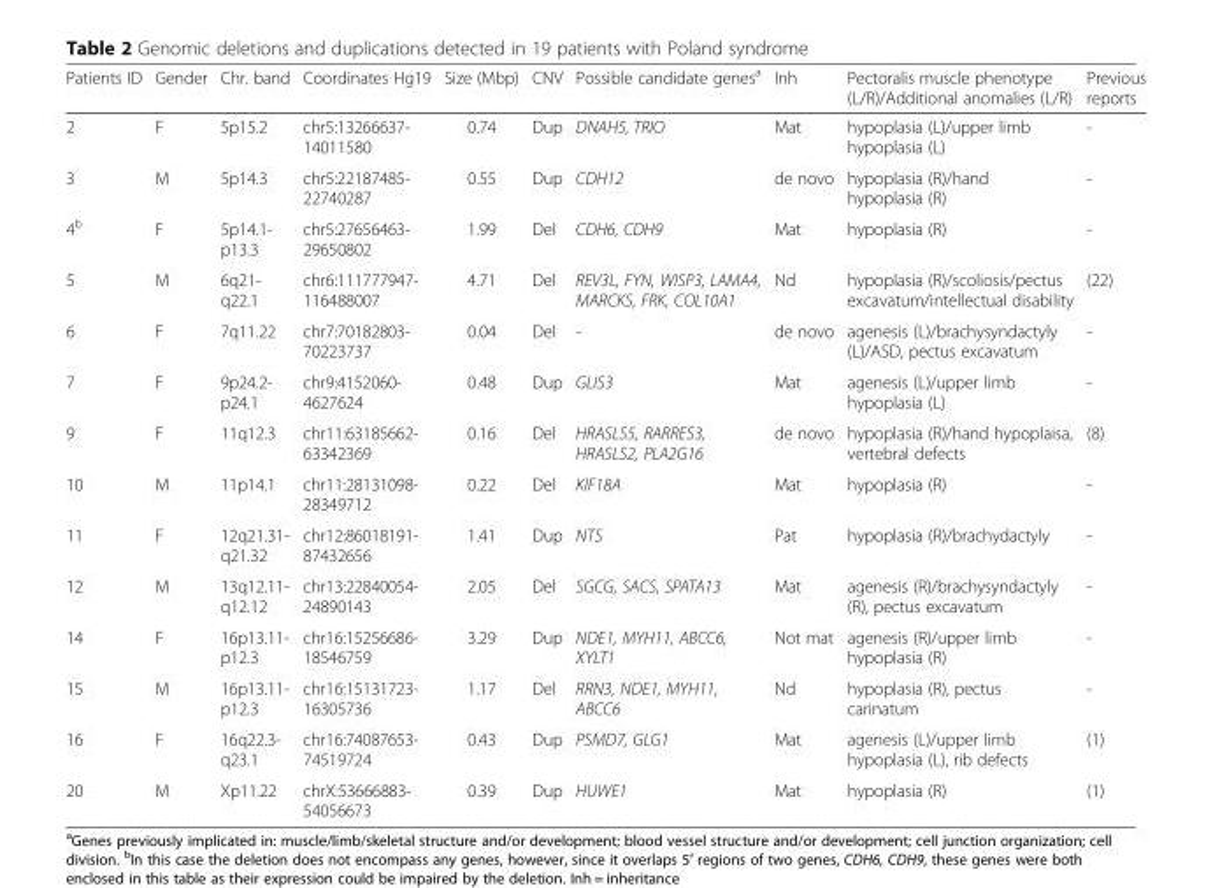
<table><thead><tr><td>Patients ID</td><td>Gender</td><td>Chr. band</td><td>Coordinates Hg19</td><td>Size (Mbp)</td><td>CNV</td><td>Possible candidate genes<sup>a</sup></td><td>Inh</td><td>Pectoralis muscle phenotype (L/R)/Additional anomalies (L/R)</td><td>Previous reports</td></tr></thead><tbody><tr><td>2</td><td>F</td><td>5p15.2</td><td>chr5:13266637- 14011580</td><td>0.74</td><td>Dup</td><td>DNAH5, TRIO</td><td>Mat</td><td>hypoplasia (L)/upper limb hypoplasia (L)</td><td>-</td></tr><tr><td>3</td><td>M</td><td>5p14.3</td><td>chr5:22187485- 22740287</td><td>0.55</td><td>Dup</td><td>CDH12</td><td>de novo</td><td>hypoplasia (R)/hand hypoplasia (R)</td><td>-</td></tr><tr><td>4<sup>b</sup></td><td>F</td><td>5p14.1- p13.3</td><td>chr5:27656463- 29650802</td><td>1.99</td><td>Del</td><td>CDH6, CDH9</td><td>Mat</td><td>hypoplasia (R)</td><td>-</td></tr><tr><td>5</td><td>M</td><td>6q21- q22.1</td><td>chr6:111777947- 116488007</td><td>4.71</td><td>Del</td><td>REV3L, FYN, WISP3, LAMA4, MARCKS, FRK, COL10A1</td><td>Nd</td><td>hypoplasia (R)/scoliosis/pectus excavatum/intellectual disability</td><td>(22)</td></tr><tr><td>6</td><td>F</td><td>7q11.22</td><td>chr7:70182803- 70223737</td><td>0.04</td><td>Del</td><td>-</td><td>de novo</td><td>agenesis (L)/brachysyndactyly (L)/ASD, pectus excavatum</td><td>-</td></tr><tr><td>7</td><td>F</td><td>9p24.2- p24.1</td><td>chr9:4152060- 4627624</td><td>0.48</td><td>Dup</td><td>GLIS3</td><td>Mat</td><td>agenesis (L)/upper limb hypoplasia (L)</td><td>-</td></tr><tr><td>9</td><td>F</td><td>11q12.3</td><td>chr11:63185662- 63342369</td><td>0.16</td><td>Del</td><td>HRASLS5, RARRES3, HRASLS2, PLA2G16</td><td>de novo</td><td>hypoplasia (R)/hand hypoplaisa, vertebral defects</td><td>(8)</td></tr><tr><td>10</td><td>M</td><td>11p14.1</td><td>chr11:28131098- 28349712</td><td>0.22</td><td>Del</td><td>KIF18A</td><td>Mat</td><td>hypoplasia (R)</td><td>-</td></tr><tr><td>11</td><td>F</td><td>12q21.31- q21.32</td><td>chr12:86018191- 87432656</td><td>1.41</td><td>Dup</td><td>NTS</td><td>Pat</td><td>hypoplasia (R)/brachydactyly</td><td>-</td></tr><tr><td>12</td><td>M</td><td>13q12.11- q12.12</td><td>chr13:22840054- 24890143</td><td>2.05</td><td>Del</td><td>SGCG, SACS, SPATA13</td><td>Mat</td><td>agenesis (R)/brachysyndactyly (R), pectus excavatum</td><td>-</td></tr><tr><td>14</td><td>F</td><td>16p13.11- p12.3</td><td>chr16:15256686- 18546759</td><td>3.29</td><td>Dup</td><td>NDE1, MYH11, ABCC6, XYLT1</td><td>Not mat</td><td>agenesis (R)/upper limb hypoplasia (R)</td><td>-</td></tr><tr><td>15</td><td>M</td><td>16p13.11- p12.3</td><td>chr16:15131723- 16305736</td><td>1.17</td><td>Del</td><td>RRN3, NDE1, MYH11, ABCC6</td><td>Nd</td><td>hypoplasia (R), pectus carinatum</td><td>-</td></tr><tr><td>16</td><td>F</td><td>16q22.3- q23.1</td><td>chr16:74087653- 74519724</td><td>0.43</td><td>Dup</td><td>PSMD7, GLG1</td><td>Mat</td><td>agenesis (L)/upper limb hypoplasia (L), rib defects</td><td>(1)</td></tr><tr><td>20</td><td>M</td><td>Xp11.22</td><td>chrX:53666883- 54056673</td><td>0.39</td><td>Dup</td><td>HUWE1</td><td>Mat</td><td>hypoplasia (R)</td><td>(1)</td></tr></tbody></table>